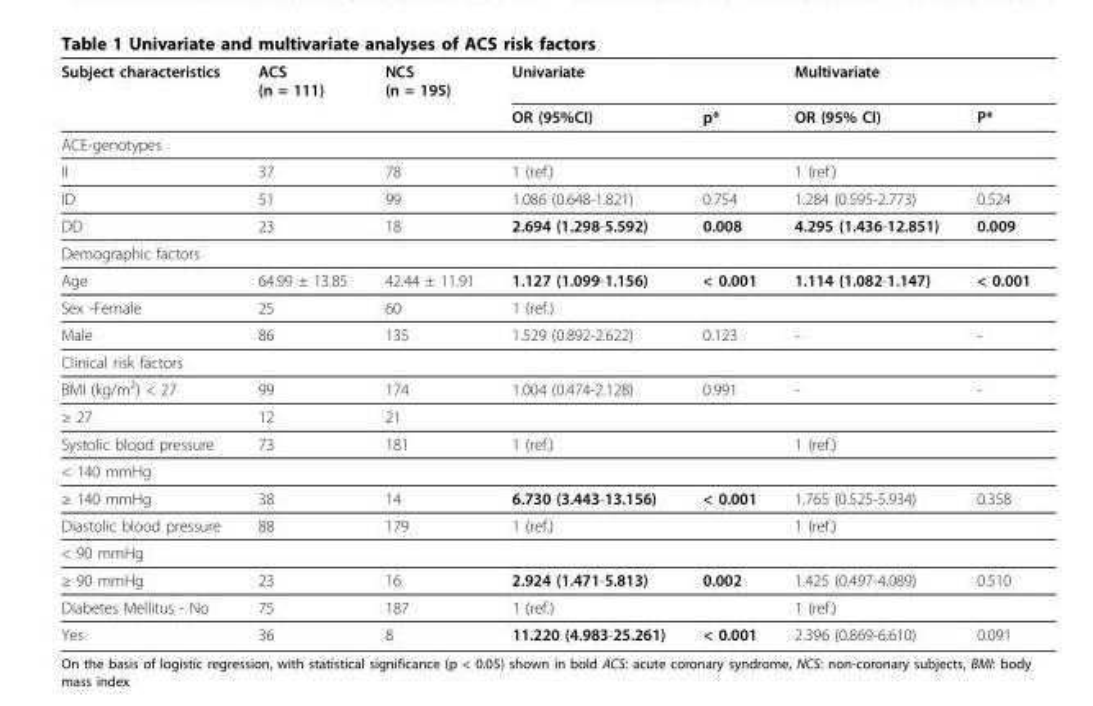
<table><thead><tr><td rowspan="2">Subject characteristics</td><td rowspan="2">ACS (n = 111)</td><td rowspan="2">NCS (n = 195)</td><td rowspan="2">Univariate OR (95%CI)</td><td rowspan="2">p*</td><td rowspan="2">Multivariate OR (95% CI)</td><td rowspan="2">P*</td></tr><tr></tr></thead><tbody><tr><td colspan="7">ACE-genotypes</td></tr><tr><td>II</td><td>37</td><td>78</td><td>1 (ref.)</td><td></td><td>1 (ref.)</td><td></td></tr><tr><td>ID</td><td>51</td><td>99</td><td>1.086 (0.648-1.821)</td><td>0.754</td><td>1.284 (0.595-2.773)</td><td>0.524</td></tr><tr><td>DD</td><td>23</td><td>18</td><td>2.694 (1.298-5.592)</td><td>0.008</td><td>4.295 (1.436-12.851)</td><td>0.009</td></tr><tr><td colspan="7">Demographic factors</td></tr><tr><td>Age</td><td>64.99 ± 13.85</td><td>42.44 ± 11.91</td><td>1.127 (1.099-1.156)</td><td>&lt; 0.001</td><td>1.114 (1.082-1.147)</td><td>&lt; 0.001</td></tr><tr><td>Sex -Female</td><td>25</td><td>60</td><td>1 (ref.)</td><td></td><td></td><td></td></tr><tr><td>Male</td><td>86</td><td>135</td><td>1.529 (0.892-2.622)</td><td>0.123</td><td>-</td><td>-</td></tr><tr><td colspan="7">Clinical risk factors</td></tr><tr><td>BMI (kg/m<sup>2</sup>) &lt; 27</td><td>99</td><td>174</td><td>1.004 (0.474-2.128)</td><td>0.991</td><td>-</td><td>-</td></tr><tr><td>≥ 27</td><td>12</td><td>21</td><td></td><td></td><td></td><td></td></tr><tr><td>Systolic blood pressure</td><td>73</td><td>181</td><td>1 (ref.)</td><td></td><td>1 (ref.)</td><td></td></tr><tr><td colspan="7">&lt; 140 mmHg</td></tr><tr><td>≥ 140 mmHg</td><td>38</td><td>14</td><td>6.730 (3.443-13.156)</td><td>&lt; 0.001</td><td>1.765 (0.525-5.934)</td><td>0.358</td></tr><tr><td>Diastolic blood pressure</td><td>88</td><td>179</td><td>1 (ref.)</td><td></td><td>1 (ref.)</td><td></td></tr><tr><td colspan="7">&lt; 90 mmHg</td></tr><tr><td>≥ 90 mmHg</td><td>23</td><td>16</td><td>2.924 (1.471-5.813)</td><td>0.002</td><td>1.425 (0.497-4.089)</td><td>0.510</td></tr><tr><td>Diabetes Mellitus - No</td><td>75</td><td>187</td><td>1 (ref.)</td><td></td><td>1 (ref.)</td><td></td></tr><tr><td>Yes</td><td>36</td><td>8</td><td>11.220 (4.983-25.261)</td><td>&lt; 0.001</td><td>2.396 (0.869-6.610)</td><td>0.091</td></tr></tbody></table>